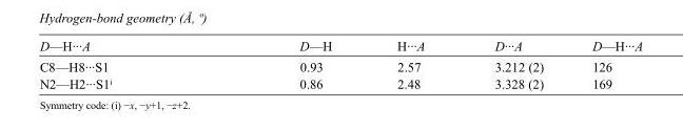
<table><tbody><tr><td>D—H···A</td><td>D—H</td><td>H···A</td><td>D···A</td><td>D—H···A</td></tr><tr><td>C8—H8···S1</td><td>0.93</td><td>2.57</td><td>3.212 (2)</td><td>126</td></tr><tr><td>N2—H2···S1<sup>i</sup></td><td>0.86</td><td>2.48</td><td>3.328 (2)</td><td>169</td></tr></tbody></table>